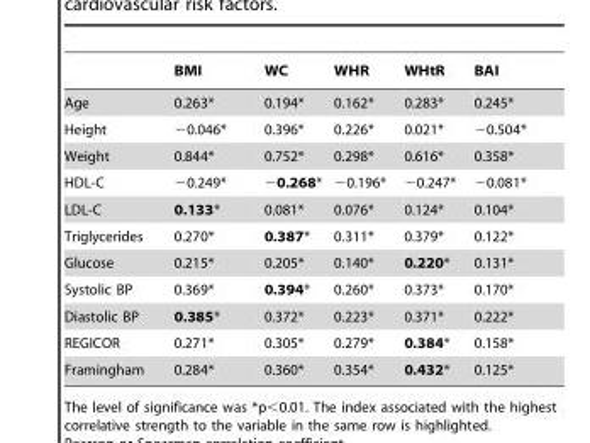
<table><thead><tr><td></td><td>BMI</td><td>WC</td><td>WHR</td><td>WHtR</td><td>BAI</td></tr></thead><tbody><tr><td>Age</td><td>0.263*</td><td>0.194*</td><td>0.162*</td><td>0.283*</td><td>0.245*</td></tr><tr><td>Height</td><td>−0.046*</td><td>0.396*</td><td>0.226*</td><td>0.021*</td><td>−0.504*</td></tr><tr><td>Weight</td><td>0.844*</td><td>0.752*</td><td>0.298*</td><td>0.616*</td><td>0.358*</td></tr><tr><td>HDL-C</td><td>−0.249*</td><td>−0.268*</td><td>−0.196*</td><td>−0.247*</td><td>−0.081*</td></tr><tr><td>LDL-C</td><td>0.133*</td><td>0.081*</td><td>0.076*</td><td>0.124*</td><td>0.104*</td></tr><tr><td>Triglycerides</td><td>0.270*</td><td>0.387*</td><td>0.311*</td><td>0.379*</td><td>0.122*</td></tr><tr><td>Glucose</td><td>0.215*</td><td>0.205*</td><td>0.140*</td><td>0.220*</td><td>0.131*</td></tr><tr><td>Systolic BP</td><td>0.369*</td><td>0.394*</td><td>0.260*</td><td>0.373*</td><td>0.170*</td></tr><tr><td>Diastolic BP</td><td>0.385*</td><td>0.372*</td><td>0.223*</td><td>0.371*</td><td>0.222*</td></tr><tr><td>REGICOR</td><td>0.271*</td><td>0.305*</td><td>0.279*</td><td>0.384*</td><td>0.158*</td></tr><tr><td>Framingham</td><td>0.284*</td><td>0.360*</td><td>0.354*</td><td>0.432*</td><td>0.125*</td></tr></tbody></table>